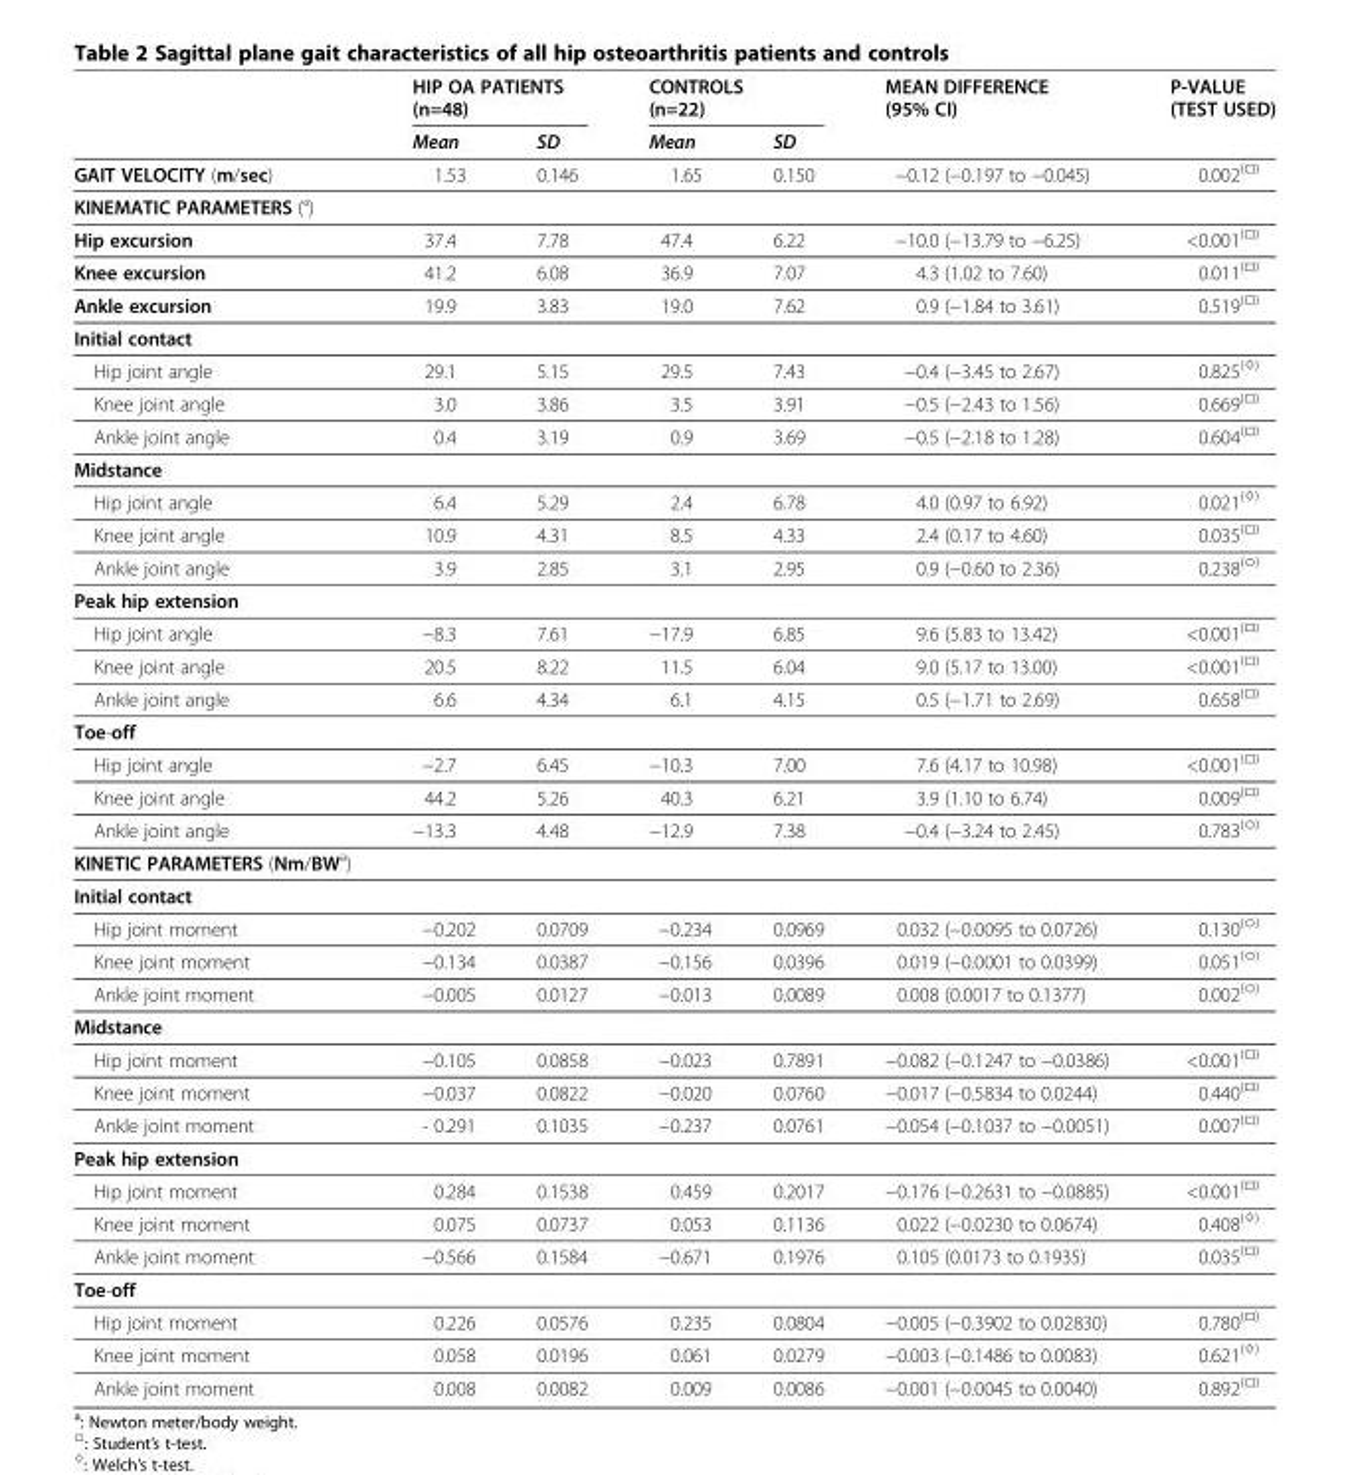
<table><thead><tr><td rowspan="2"></td><td colspan="2">HIP OA PATIENTS (n=48)</td><td colspan="2">CONTROLS (n=22)</td><td rowspan="2">MEAN DIFFERENCE (95% CI)</td><td rowspan="2">P-VALUE (TEST USED)</td></tr><tr><td>Mean</td><td>SD</td><td>Mean</td><td>SD</td></tr></thead><tbody><tr><td>GAIT VELOCITY (m/sec)</td><td>1.53</td><td>0.146</td><td>1.65</td><td>0.150</td><td>−0.12 (−0.197 to −0.045)</td><td>0.002<sup>(□)</sup></td></tr><tr><td colspan="7">KINEMATIC PARAMETERS (°)</td></tr><tr><td>Hip excursion</td><td>37.4</td><td>7.78</td><td>47.4</td><td>6.22</td><td>−10.0 (−13.79 to −6.25)</td><td>&lt;0.001<sup>(□)</sup></td></tr><tr><td>Knee excursion</td><td>41.2</td><td>6.08</td><td>36.9</td><td>7.07</td><td>4.3 (1.02 to 7.60)</td><td>0.011<sup>(□)</sup></td></tr><tr><td>Ankle excursion</td><td>19.9</td><td>3.83</td><td>19.0</td><td>7.62</td><td>0.9 (−1.84 to 3.61)</td><td>0.519<sup>(□)</sup></td></tr><tr><td colspan="7">Initial contact</td></tr><tr><td>Hip joint angle</td><td>29.1</td><td>5.15</td><td>29.5</td><td>7.43</td><td>−0.4 (−3.45 to 2.67)</td><td>0.825<sup>(◊)</sup></td></tr><tr><td>Knee joint angle</td><td>3.0</td><td>3.86</td><td>3.5</td><td>3.91</td><td>−0.5 (−2.43 to 1.56)</td><td>0.669<sup>(□)</sup></td></tr><tr><td>Ankle joint angle</td><td>0.4</td><td>3.19</td><td>0.9</td><td>3.69</td><td>−0.5 (−2.18 to 1.28)</td><td>0.604<sup>(□)</sup></td></tr><tr><td colspan="7">Midstance</td></tr><tr><td>Hip joint angle</td><td>6.4</td><td>5.29</td><td>2.4</td><td>6.78</td><td>4.0 (0.97 to 6.92)</td><td>0.021<sup>(◊)</sup></td></tr><tr><td>Knee joint angle</td><td>10.9</td><td>4.31</td><td>8.5</td><td>4.33</td><td>2.4 (0.17 to 4.60)</td><td>0.035<sup>(□)</sup></td></tr><tr><td>Ankle joint angle</td><td>3.9</td><td>2.85</td><td>3.1</td><td>2.95</td><td>0.9 (−0.60 to 2.36)</td><td>0.238<sup>(○)</sup></td></tr><tr><td colspan="7">Peak hip extension</td></tr><tr><td>Hip joint angle</td><td>−8.3</td><td>7.61</td><td>−17.9</td><td>6.85</td><td>9.6 (5.83 to 13.42)</td><td>&lt;0.001<sup>(□)</sup></td></tr><tr><td>Knee joint angle</td><td>20.5</td><td>8.22</td><td>11.5</td><td>6.04</td><td>9.0 (5.17 to 13.00)</td><td>&lt;0.001<sup>(□)</sup></td></tr><tr><td>Ankle joint angle</td><td>6.6</td><td>4.34</td><td>6.1</td><td>4.15</td><td>0.5 (−1.71 to 2.69)</td><td>0.658<sup>(□)</sup></td></tr><tr><td colspan="7">Toe-off</td></tr><tr><td>Hip joint angle</td><td>−2.7</td><td>6.45</td><td>−10.3</td><td>7.00</td><td>7.6 (4.17 to 10.98)</td><td>&lt;0.001<sup>(□)</sup></td></tr><tr><td>Knee joint angle</td><td>44.2</td><td>5.26</td><td>40.3</td><td>6.21</td><td>3.9 (1.10 to 6.74)</td><td>0.009<sup>(□)</sup></td></tr><tr><td>Ankle joint angle</td><td>−13.3</td><td>4.48</td><td>−12.9</td><td>7.38</td><td>−0.4 (−3.24 to 2.45)</td><td>0.783<sup>(○)</sup></td></tr><tr><td colspan="7">KINETIC PARAMETERS (Nm/BW<sup>a</sup>)</td></tr><tr><td colspan="7">Initial contact</td></tr><tr><td>Hip joint moment</td><td>−0.202</td><td>0.0709</td><td>−0.234</td><td>0.0969</td><td>0.032 (−0.0095 to 0.0726)</td><td>0.130<sup>(○)</sup></td></tr><tr><td>Knee joint moment</td><td>−0.134</td><td>0.0387</td><td>−0.156</td><td>0.0396</td><td>0.019 (−0.0001 to 0.0399)</td><td>0.051<sup>(○)</sup></td></tr><tr><td>Ankle joint moment</td><td>−0.005</td><td>0.0127</td><td>−0.013</td><td>0.0089</td><td>0.008 (0.0017 to 0.1377)</td><td>0.002<sup>(○)</sup></td></tr><tr><td colspan="7">Midstance</td></tr><tr><td>Hip joint moment</td><td>−0.105</td><td>0.0858</td><td>−0.023</td><td>0.7891</td><td>−0.082 (−0.1247 to −0.0386)</td><td>&lt;0.001<sup>(□)</sup></td></tr><tr><td>Knee joint moment</td><td>−0.037</td><td>0.0822</td><td>−0.020</td><td>0.0760</td><td>−0.017 (−0.5834 to 0.0244)</td><td>0.440<sup>(□)</sup></td></tr><tr><td>Ankle joint moment</td><td>- 0.291</td><td>0.1035</td><td>−0.237</td><td>0.0761</td><td>−0.054 (−0.1037 to −0.0051)</td><td>0.007<sup>(□)</sup></td></tr><tr><td colspan="7">Peak hip extension</td></tr><tr><td>Hip joint moment</td><td>0.284</td><td>0.1538</td><td>0.459</td><td>0.2017</td><td>−0.176 (−0.2631 to −0.0885)</td><td>&lt;0.001<sup>(□)</sup></td></tr><tr><td>Knee joint moment</td><td>0.075</td><td>0.0737</td><td>0.053</td><td>0.1136</td><td>0.022 (−0.0230 to 0.0674)</td><td>0.408<sup>(◊)</sup></td></tr><tr><td>Ankle joint moment</td><td>−0.566</td><td>0.1584</td><td>−0.671</td><td>0.1976</td><td>0.105 (0.0173 to 0.1935)</td><td>0.035<sup>(□)</sup></td></tr><tr><td colspan="7">Toe-off</td></tr><tr><td>Hip joint moment</td><td>0.226</td><td>0.0576</td><td>0.235</td><td>0.0804</td><td>−0.005 (−0.3902 to 0.02830)</td><td>0.780<sup>(□)</sup></td></tr><tr><td>Knee joint moment</td><td>0.058</td><td>0.0196</td><td>0.061</td><td>0.0279</td><td>−0.003 (−0.1486 to 0.0083)</td><td>0.621<sup>(◊)</sup></td></tr><tr><td>Ankle joint moment</td><td>0.008</td><td>0.0082</td><td>0.009</td><td>0.0086</td><td>−0.001 (−0.0045 to 0.0040)</td><td>0.892<sup>(□)</sup></td></tr></tbody></table>